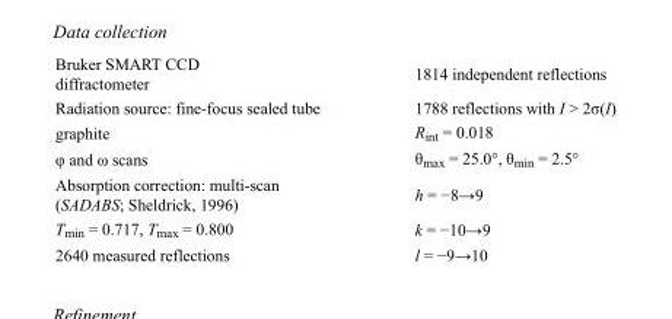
<table><tbody><tr><td>Bruker SMART CCD diffractometer</td><td>1814 independent reflections</td></tr><tr><td>Radiation source: fine-focus sealed tube</td><td>1788 reflections with I &gt; 2σ(I)</td></tr><tr><td>graphite</td><td>R<sub>int</sub> = 0.018</td></tr><tr><td>φ and ω scans</td><td>θ<sub>max</sub> = 25.0°, θ<sub>min</sub> = 2.5°</td></tr><tr><td>Absorption correction: multi-scan (SADABS; Sheldrick, 1996)</td><td>h = −8→9</td></tr><tr><td>T<sub>min</sub> = 0.717, T<sub>max</sub> = 0.800</td><td>k = −10→9</td></tr><tr><td>2640 measured reflections</td><td>l = −9→10</td></tr></tbody></table>